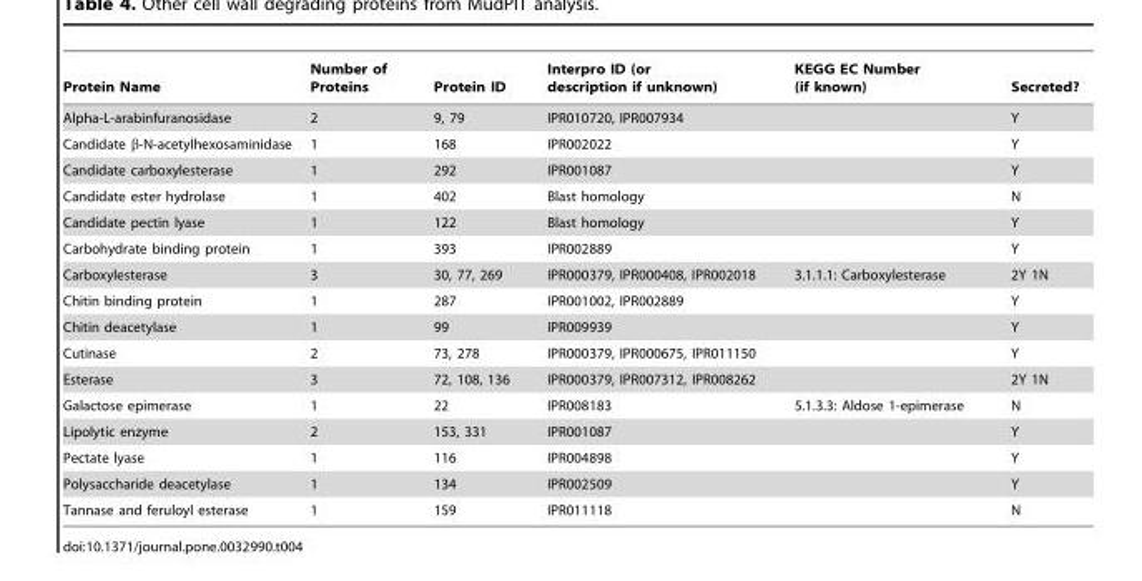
<table><thead><tr><td>Protein Name</td><td>Number of Proteins</td><td>Protein ID</td><td>Interpro ID (or description if unknown)</td><td>KEGG EC Number (if known)</td><td>Secreted?</td></tr></thead><tbody><tr><td>Alpha-L-arabinfuranosidase</td><td>2</td><td>9, 79</td><td>IPR010720, IPR007934</td><td></td><td>Y</td></tr><tr><td>Candidate β-N-acetylhexosaminidase</td><td>1</td><td>168</td><td>IPR002022</td><td></td><td>Y</td></tr><tr><td>Candidate carboxylesterase</td><td>1</td><td>292</td><td>IPR001087</td><td></td><td>Y</td></tr><tr><td>Candidate ester hydrolase</td><td>1</td><td>402</td><td>Blast homology</td><td></td><td>N</td></tr><tr><td>Candidate pectin lyase</td><td>1</td><td>122</td><td>Blast homology</td><td></td><td>Y</td></tr><tr><td>Carbohydrate binding protein</td><td>1</td><td>393</td><td>IPR002889</td><td></td><td>Y</td></tr><tr><td>Carboxylesterase</td><td>3</td><td>30, 77, 269</td><td>IPR000379, IPR000408, IPR002018</td><td>3.1.1.1: Carboxylesterase</td><td>2Y 1N</td></tr><tr><td>Chitin binding protein</td><td>1</td><td>287</td><td>IPR001002, IPR002889</td><td></td><td>Y</td></tr><tr><td>Chitin deacetylase</td><td>1</td><td>99</td><td>IPR009939</td><td></td><td>Y</td></tr><tr><td>Cutinase</td><td>2</td><td>73, 278</td><td>IPR000379, IPR000675, IPR011150</td><td></td><td>Y</td></tr><tr><td>Esterase</td><td>3</td><td>72, 108, 136</td><td>IPR000379, IPR007312, IPR008262</td><td></td><td>2Y 1N</td></tr><tr><td>Galactose epimerase</td><td>1</td><td>22</td><td>IPR008183</td><td>5.1.3.3: Aldose 1-epimerase</td><td>N</td></tr><tr><td>Lipolytic enzyme</td><td>2</td><td>153, 331</td><td>IPR001087</td><td></td><td>Y</td></tr><tr><td>Pectate lyase</td><td>1</td><td>116</td><td>IPR004898</td><td></td><td>Y</td></tr><tr><td>Polysaccharide deacetylase</td><td>1</td><td>134</td><td>IPR002509</td><td></td><td>Y</td></tr><tr><td>Tannase and feruloyl esterase</td><td>1</td><td>159</td><td>IPR011118</td><td></td><td>N</td></tr></tbody></table>